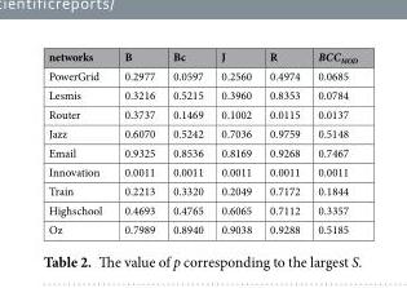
<table><thead><tr><td>networks</td><td>B</td><td>Bc</td><td>J</td><td>R</td><td>BCC<sub>MOD</sub></td></tr></thead><tbody><tr><td>PowerGrid</td><td>0.2977</td><td>0.0597</td><td>0.2560</td><td>0.4974</td><td>0.0685</td></tr><tr><td>Lesmis</td><td>0.3216</td><td>0.5215</td><td>0.3960</td><td>0.8353</td><td>0.0784</td></tr><tr><td>Router</td><td>0.3737</td><td>0.1469</td><td>0.1002</td><td>0.0115</td><td>0.0137</td></tr><tr><td>Jazz</td><td>0.6070</td><td>0.5242</td><td>0.7036</td><td>0.9759</td><td>0.5148</td></tr><tr><td>Email</td><td>0.9325</td><td>0.8536</td><td>0.8169</td><td>0.9268</td><td>0.7467</td></tr><tr><td>Innovation</td><td>0.0011</td><td>0.0011</td><td>0.0011</td><td>0.0011</td><td>0.0011</td></tr><tr><td>Train</td><td>0.2213</td><td>0.3320</td><td>0.2049</td><td>0.7172</td><td>0.1844</td></tr><tr><td>Highschool</td><td>0.4693</td><td>0.4765</td><td>0.6065</td><td>0.7112</td><td>0.3357</td></tr><tr><td>Oz</td><td>0.7989</td><td>0.8940</td><td>0.9038</td><td>0.9288</td><td>0.5185</td></tr></tbody></table>